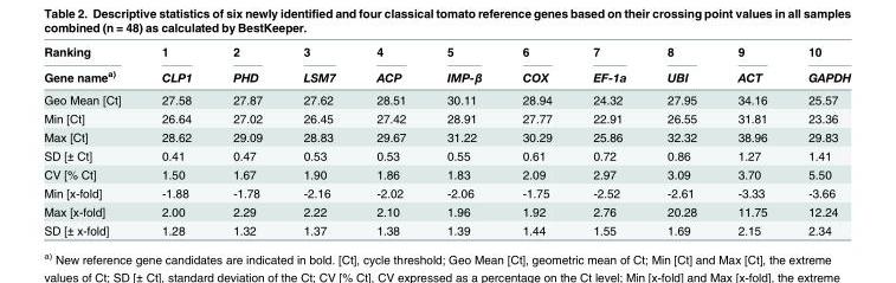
<table><thead><tr><td rowspan="2">Ranking Gene name<sup>a)</sup></td><td rowspan="2">1 CLP1</td><td rowspan="2">2 PHD</td><td rowspan="2">3 LSM7</td><td rowspan="2">4 ACP</td><td rowspan="2">5 IMP-β</td><td rowspan="2">6 COX</td><td rowspan="2">7 EF-1a</td><td rowspan="2">8 UBI</td><td rowspan="2">9 ACT</td><td rowspan="2">10 GAPDH</td></tr><tr></tr></thead><tbody><tr><td>Geo Mean [Ct]</td><td>27.58</td><td>27.87</td><td>27.62</td><td>28.51</td><td>30.11</td><td>28.94</td><td>24.32</td><td>27.95</td><td>34.16</td><td>25.57</td></tr><tr><td>Min [Ct]</td><td>26.64</td><td>27.02</td><td>26.45</td><td>27.42</td><td>28.91</td><td>27.77</td><td>22.91</td><td>26.55</td><td>31.81</td><td>23.36</td></tr><tr><td>Max [Ct]</td><td>28.62</td><td>29.09</td><td>28.83</td><td>29.67</td><td>31.22</td><td>30.29</td><td>25.86</td><td>32.32</td><td>38.96</td><td>29.83</td></tr><tr><td>SD [± Ct]</td><td>0.41</td><td>0.47</td><td>0.53</td><td>0.53</td><td>0.55</td><td>0.61</td><td>0.72</td><td>0.86</td><td>1.27</td><td>1.41</td></tr><tr><td>CV [% Ct]</td><td>1.50</td><td>1.67</td><td>1.90</td><td>1.86</td><td>1.83</td><td>2.09</td><td>2.97</td><td>3.09</td><td>3.70</td><td>5.50</td></tr><tr><td>Min [x-fold]</td><td>-1.88</td><td>-1.78</td><td>-2.16</td><td>-2.02</td><td>-2.06</td><td>-1.75</td><td>-2.52</td><td>-2.61</td><td>-3.33</td><td>-3.66</td></tr><tr><td>Max [x-fold]</td><td>2.00</td><td>2.29</td><td>2.22</td><td>2.10</td><td>1.96</td><td>1.92</td><td>2.76</td><td>20.28</td><td>11.75</td><td>12.24</td></tr><tr><td>SD [± x-fold]</td><td>1.28</td><td>1.32</td><td>1.37</td><td>1.38</td><td>1.39</td><td>1.44</td><td>1.55</td><td>1.69</td><td>2.15</td><td>2.34</td></tr></tbody></table>